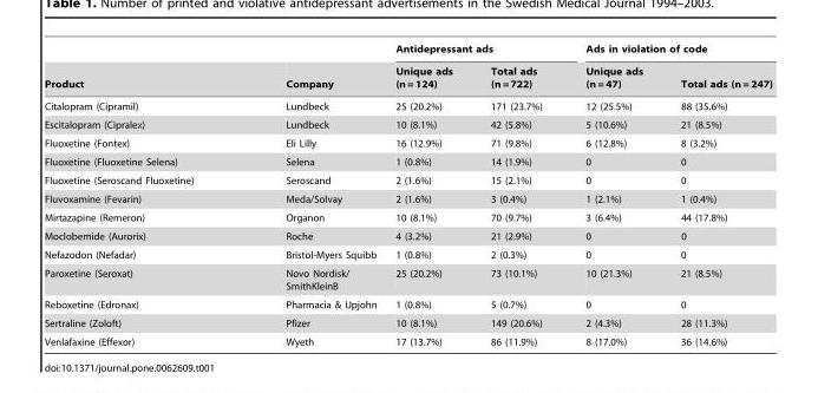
<table><thead><tr><td rowspan="2">Product</td><td rowspan="2">Company</td><td colspan="2">Antidepressant ads</td><td colspan="2">Ads in violation of code</td></tr><tr><td>Unique ads (n = 124)</td><td>Total ads (n = 722)</td><td>Unique ads (n = 47)</td><td>Total ads (n = 247)</td></tr></thead><tbody><tr><td>Citalopram (Cipramil)</td><td>Lundbeck</td><td>25 (20.2%)</td><td>171 (23.7%)</td><td>12 (25.5%)</td><td>88 (35.6%)</td></tr><tr><td>Escitalopram (Cipralex)</td><td>Lundbeck</td><td>10 (8.1%)</td><td>42 (5.8%)</td><td>5 (10.6%)</td><td>21 (8.5%)</td></tr><tr><td>Fluoxetine (Fontex)</td><td>Eli Lilly</td><td>16 (12.9%)</td><td>71 (9.8%)</td><td>6 (12.8%)</td><td>8 (3.2%)</td></tr><tr><td>Fluoxetine (Fluoxetine Selena)</td><td>Selena</td><td>1 (0.8%)</td><td>14 (1.9%)</td><td>0</td><td>0</td></tr><tr><td>Fluoxetine (Seroscand Fluoxetine)</td><td>Seroscand</td><td>2 (1.6%)</td><td>15 (2.1%)</td><td>0</td><td>0</td></tr><tr><td>Fluvoxamine (Fevarin)</td><td>Meda/Solvay</td><td>2 (1.6%)</td><td>3 (0.4%)</td><td>1 (2.1%)</td><td>1 (0.4%)</td></tr><tr><td>Mirtazapine (Remeron)</td><td>Organon</td><td>10 (8.1%)</td><td>70 (9.7%)</td><td>3 (6.4%)</td><td>44 (17.8%)</td></tr><tr><td>Moclobemide (Aurorix)</td><td>Roche</td><td>4 (3.2%)</td><td>21 (2.9%)</td><td>0</td><td>0</td></tr><tr><td>Nefazodon (Nefadar)</td><td>Bristol-Myers Squibb</td><td>1 (0.8%)</td><td>2 (0.3%)</td><td>0</td><td>0</td></tr><tr><td>Paroxetine (Seroxat)</td><td>Novo Nordisk/ SmithKleinB</td><td>25 (20.2%)</td><td>73 (10.1%)</td><td>10 (21.3%)</td><td>21 (8.5%)</td></tr><tr><td>Reboxetine (Edronax)</td><td>Pharmacia &amp; Upjohn</td><td>1 (0.8%)</td><td>5 (0.7%)</td><td>0</td><td>0</td></tr><tr><td>Sertraline (Zoloft)</td><td>Pfizer</td><td>10 (8.1%)</td><td>149 (20.6%)</td><td>2 (4.3%)</td><td>28 (11.3%)</td></tr><tr><td>Venlafaxine (Effexor)</td><td>Wyeth</td><td>17 (13.7%)</td><td>86 (11.9%)</td><td>8 (17.0%)</td><td>36 (14.6%)</td></tr></tbody></table>